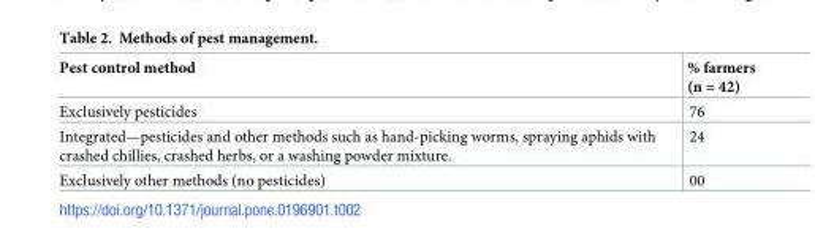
<table><thead><tr><td>Pest control method</td><td>% farmers (n = 42)</td></tr></thead><tbody><tr><td>Exclusively pesticides</td><td>76</td></tr><tr><td>Integrated—pesticides and other methods such as hand-picking worms, spraying aphids with crashed chillies, crashed herbs, or a washing powder mixture.</td><td>24</td></tr><tr><td>Exclusively other methods (no pesticides)</td><td>00</td></tr></tbody></table>